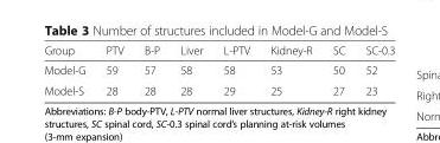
<table><thead><tr><td>Group</td><td>PTV</td><td>B-P</td><td>Liver</td><td>L-PTV</td><td>Kidney-R</td><td>SC</td><td>SC-0.3</td></tr></thead><tbody><tr><td>Model-G</td><td>59</td><td>57</td><td>58</td><td>58</td><td>53</td><td>50</td><td>52</td></tr><tr><td>Model-S</td><td>28</td><td>28</td><td>28</td><td>29</td><td>25</td><td>27</td><td>23</td></tr></tbody></table>